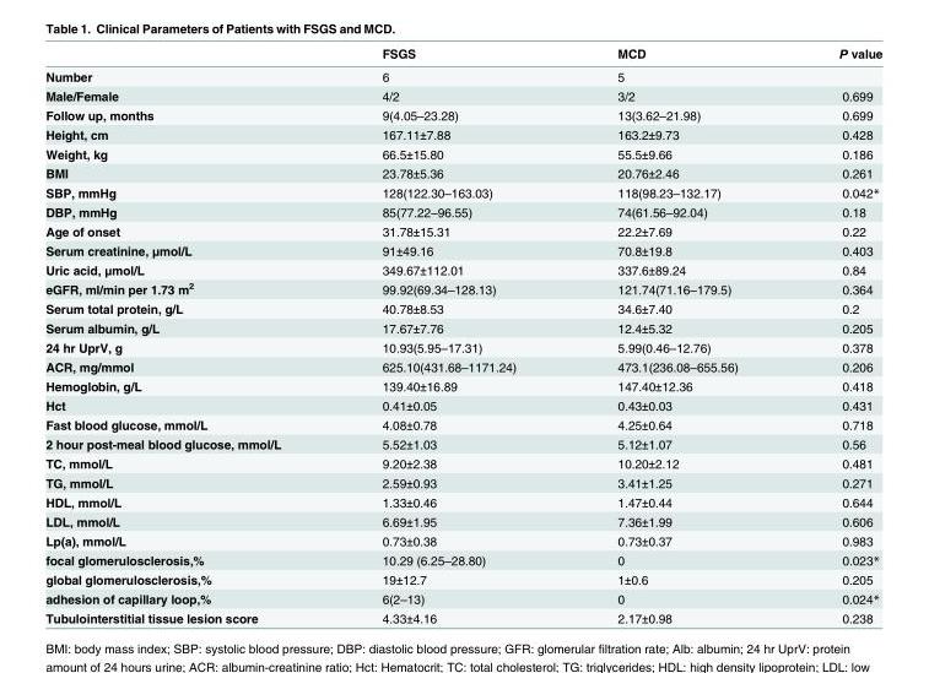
<table><thead><tr><td></td><td>FSGS</td><td>MCD</td><td>P value</td></tr></thead><tbody><tr><td>Number</td><td>6</td><td>5</td><td></td></tr><tr><td>Male/Female</td><td>4/2</td><td>3/2</td><td>0.699</td></tr><tr><td>Follow up, months</td><td>9(4.05–23.28)</td><td>13(3.62–21.98)</td><td>0.699</td></tr><tr><td>Height, cm</td><td>167.11±7.88</td><td>163.2±9.73</td><td>0.428</td></tr><tr><td>Weight, kg</td><td>66.5±15.80</td><td>55.5±9.66</td><td>0.186</td></tr><tr><td>BMI</td><td>23.78±5.36</td><td>20.76±2.46</td><td>0.261</td></tr><tr><td>SBP, mmHg</td><td>128(122.30–163.03)</td><td>118(98.23–132.17)</td><td>0.042*</td></tr><tr><td>DBP, mmHg</td><td>85(77.22–96.55)</td><td>74(61.56–92.04)</td><td>0.18</td></tr><tr><td>Age of onset</td><td>31.78±15.31</td><td>22.2±7.69</td><td>0.22</td></tr><tr><td>Serum creatinine, μmol/L</td><td>91±49.16</td><td>70.8±19.8</td><td>0.403</td></tr><tr><td>Uric acid, μmol/L</td><td>349.67±112.01</td><td>337.6±89.24</td><td>0.84</td></tr><tr><td>eGFR, ml/min per 1.73 m<sup>2</sup></td><td>99.92(69.34–128.13)</td><td>121.74(71.16–179.5)</td><td>0.364</td></tr><tr><td>Serum total protein, g/L</td><td>40.78±8.53</td><td>34.6±7.40</td><td>0.2</td></tr><tr><td>Serum albumin, g/L</td><td>17.67±7.76</td><td>12.4±5.32</td><td>0.205</td></tr><tr><td>24 hr UprV, g</td><td>10.93(5.95–17.31)</td><td>5.99(0.46–12.76)</td><td>0.378</td></tr><tr><td>ACR, mg/mmol</td><td>625.10(431.68–1171.24)</td><td>473.1(236.08–655.56)</td><td>0.206</td></tr><tr><td>Hemoglobin, g/L</td><td>139.40±16.89</td><td>147.40±12.36</td><td>0.418</td></tr><tr><td>Hct</td><td>0.41±0.05</td><td>0.43±0.03</td><td>0.431</td></tr><tr><td>Fast blood glucose, mmol/L</td><td>4.08±0.78</td><td>4.25±0.64</td><td>0.718</td></tr><tr><td>2 hour post-meal blood glucose, mmol/L</td><td>5.52±1.03</td><td>5.12±1.07</td><td>0.56</td></tr><tr><td>TC, mmol/L</td><td>9.20±2.38</td><td>10.20±2.12</td><td>0.481</td></tr><tr><td>TG, mmol/L</td><td>2.59±0.93</td><td>3.41±1.25</td><td>0.271</td></tr><tr><td>HDL, mmol/L</td><td>1.33±0.46</td><td>1.47±0.44</td><td>0.644</td></tr><tr><td>LDL, mmol/L</td><td>6.69±1.95</td><td>7.36±1.99</td><td>0.606</td></tr><tr><td>Lp(a), mmol/L</td><td>0.73±0.38</td><td>0.73±0.37</td><td>0.983</td></tr><tr><td>focal glomerulosclerosis,%</td><td>10.29 (6.25–28.80)</td><td>0</td><td>0.023*</td></tr><tr><td>global glomerulosclerosis,%</td><td>19±12.7</td><td>1±0.6</td><td>0.205</td></tr><tr><td>adhesion of capillary loop,%</td><td>6(2–13)</td><td>0</td><td>0.024*</td></tr><tr><td>Tubulointerstitial tissue lesion score</td><td>4.33±4.16</td><td>2.17±0.98</td><td>0.238</td></tr></tbody></table>